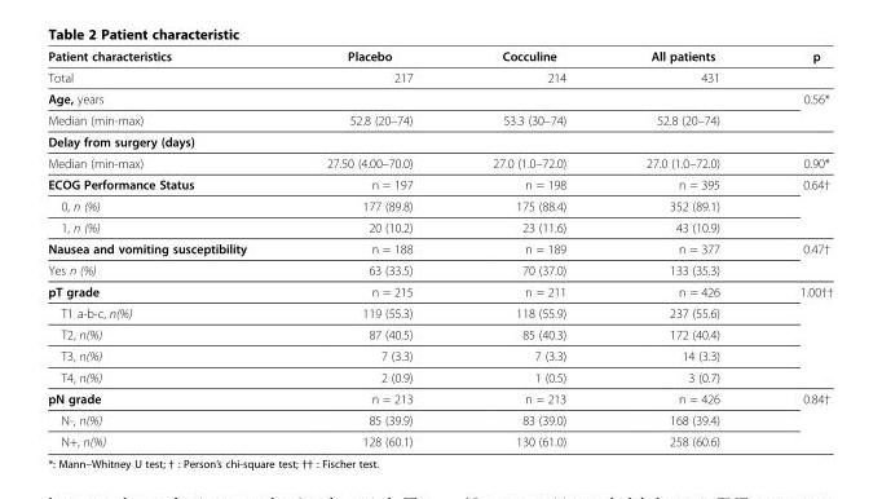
<table><thead><tr><td>Patient characteristics</td><td>Placebo</td><td>Cocculine</td><td>All patients</td><td>p</td></tr></thead><tbody><tr><td>Total</td><td>217</td><td>214</td><td>431</td><td></td></tr><tr><td>Age, years</td><td></td><td></td><td></td><td>0.56*</td></tr><tr><td>Median (min-max)</td><td>52.8 (20–74)</td><td>53.3 (30–74)</td><td>52.8 (20–74)</td><td></td></tr><tr><td colspan="5">Delay from surgery (days)</td></tr><tr><td>Median (min-max)</td><td>27.50 (4.00–70.0)</td><td>27.0 (1.0–72.0)</td><td>27.0 (1.0–72.0)</td><td>0.90*</td></tr><tr><td>ECOG Performance Status</td><td>n = 197</td><td>n = 198</td><td>n = 395</td><td>0.64†</td></tr><tr><td>0, n (%)</td><td>177 (89.8)</td><td>175 (88.4)</td><td>352 (89.1)</td><td></td></tr><tr><td>1, n (%)</td><td>20 (10.2)</td><td>23 (11.6)</td><td>43 (10.9)</td><td></td></tr><tr><td>Nausea and vomiting susceptibility</td><td>n = 188</td><td>n = 189</td><td>n = 377</td><td>0.47†</td></tr><tr><td>Yes n (%)</td><td>63 (33.5)</td><td>70 (37.0)</td><td>133 (35.3)</td><td></td></tr><tr><td>pT grade</td><td>n = 215</td><td>n = 211</td><td>n = 426</td><td>1.00††</td></tr><tr><td>T1 a-b-c, n(%)</td><td>119 (55.3)</td><td>118 (55.9)</td><td>237 (55.6)</td><td></td></tr><tr><td>T2, n(%)</td><td>87 (40.5)</td><td>85 (40.3)</td><td>172 (40.4)</td><td></td></tr><tr><td>T3, n(%)</td><td>7 (3.3)</td><td>7 (3.3)</td><td>14 (3.3)</td><td></td></tr><tr><td>T4, n(%)</td><td>2 (0.9)</td><td>1 (0.5)</td><td>3 (0.7)</td><td></td></tr><tr><td>pN grade</td><td>n = 213</td><td>n = 213</td><td>n = 426</td><td>0.84†</td></tr><tr><td>N-, n(%)</td><td>85 (39.9)</td><td>83 (39.0)</td><td>168 (39.4)</td><td></td></tr><tr><td>N+, n(%)</td><td>128 (60.1)</td><td>130 (61.0)</td><td>258 (60.6)</td><td></td></tr></tbody></table>